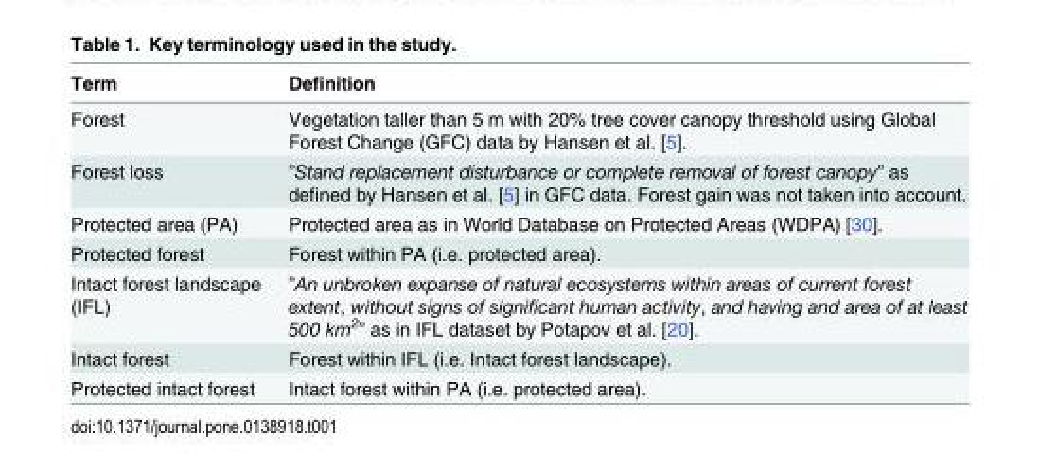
<table><thead><tr><td>Term</td><td>Definition</td></tr></thead><tbody><tr><td>Forest</td><td>Vegetation taller than 5 m with 20% tree cover canopy threshold using Global Forest Change (GFC) data by Hansen et al. [5].</td></tr><tr><td>Forest loss</td><td>”Stand replacement disturbance or complete removal of forest canopy” as defined by Hansen et al. [5] in GFC data. Forest gain was not taken into account.</td></tr><tr><td>Protected area (PA)</td><td>Protected area as in World Database on Protected Areas (WDPA) [30].</td></tr><tr><td>Protected forest</td><td>Forest within PA (i.e. protected area).</td></tr><tr><td>Intact forest landscape (IFL)</td><td>”An unbroken expanse of natural ecosystems within areas of current forest extent, without signs of significant human activity, and having and area of at least 500 km<sup>2</sup>” as in IFL dataset by Potapov et al. [20].</td></tr><tr><td>Intact forest</td><td>Forest within IFL (i.e. Intact forest landscape).</td></tr><tr><td>Protected intact forest</td><td>Intact forest within PA (i.e. protected area).</td></tr></tbody></table>